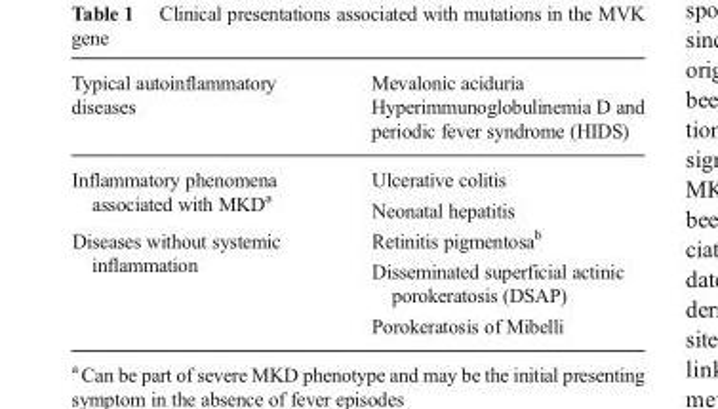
<table><thead><tr><td rowspan="2">Typical autoinflammatory diseases</td><td rowspan="2">Mevalonic aciduria Hyperimmunoglobulinemia D and periodic fever syndrome (HIDS)</td></tr><tr></tr></thead><tbody><tr><td rowspan="2">Inflammatory phenomena associated with MKD<sup>a</sup></td><td>Ulcerative colitis</td></tr><tr><td>Neonatal hepatitis</td></tr><tr><td rowspan="3">Diseases without systemic inflammation</td><td>Retinitis pigmentosa<sup>b</sup></td></tr><tr><td>Disseminated superficial actinic porokeratosis (DSAP)</td></tr><tr><td>Porokeratosis of Mibelli</td></tr></tbody></table>